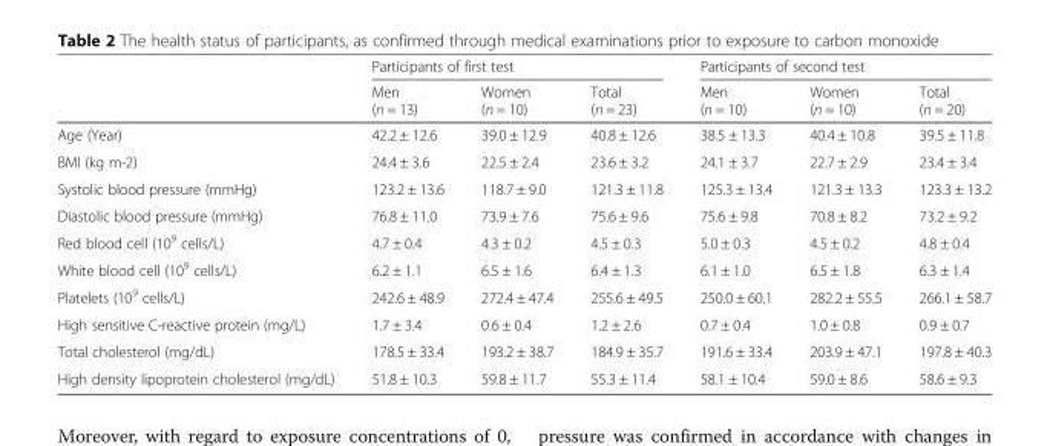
<table><thead><tr><td rowspan="2"></td><td colspan="3">Participants of first test</td><td colspan="3">Participants of second test</td></tr><tr><td>Men (n = 13)</td><td>Women (n = 10)</td><td>Total (n = 23)</td><td>Men (n = 10)</td><td>Women (n = 10)</td><td>Total (n = 20)</td></tr></thead><tbody><tr><td>Age (Year)</td><td>42.2 ± 12.6</td><td>39.0 ± 12.9</td><td>40.8 ± 12.6</td><td>38.5 ± 13.3</td><td>40.4 ± 10.8</td><td>39.5 ± 11.8</td></tr><tr><td>BMI (kg m-2)</td><td>24.4 ± 3.6</td><td>22.5 ± 2.4</td><td>23.6 ± 3.2</td><td>24.1 ± 3.7</td><td>22.7 ± 2.9</td><td>23.4 ± 3.4</td></tr><tr><td>Systolic blood pressure (mmHg)</td><td>123.2 ± 13.6</td><td>118.7 ± 9.0</td><td>121.3 ± 11.8</td><td>125.3 ± 13.4</td><td>121.3 ± 13.3</td><td>123.3 ± 13.2</td></tr><tr><td>Diastolic blood pressure (mmHg)</td><td>76.8 ± 11.0</td><td>73.9 ± 7.6</td><td>75.6 ± 9.6</td><td>75.6 ± 9.8</td><td>70.8 ± 8.2</td><td>73.2 ± 9.2</td></tr><tr><td>Red blood cell (10<sup>9</sup> cells/L)</td><td>4.7 ± 0.4</td><td>4.3 ± 0.2</td><td>4.5 ± 0.3</td><td>5.0 ± 0.3</td><td>4.5 ± 0.2</td><td>4.8 ± 0.4</td></tr><tr><td>White blood cell (10<sup>9</sup> cells/L)</td><td>6.2 ± 1.1</td><td>6.5 ± 1.6</td><td>6.4 ± 1.3</td><td>6.1 ± 1.0</td><td>6.5 ± 1.8</td><td>6.3 ± 1.4</td></tr><tr><td>Platelets (10<sup>9</sup> cells/L)</td><td>242.6 ± 48.9</td><td>272.4 ± 47.4</td><td>255.6 ± 49.5</td><td>250.0 ± 60.1</td><td>282.2 ± 55.5</td><td>266.1 ± 58.7</td></tr><tr><td>High sensitive C-reactive protein (mg/L)</td><td>1.7 ± 3.4</td><td>0.6 ± 0.4</td><td>1.2 ± 2.6</td><td>0.7 ± 0.4</td><td>1.0 ± 0.8</td><td>0.9 ± 0.7</td></tr><tr><td>Total cholesterol (mg/dL)</td><td>178.5 ± 33.4</td><td>193.2 ± 38.7</td><td>184.9 ± 35.7</td><td>191.6 ± 33.4</td><td>203.9 ± 47.1</td><td>197.8 ± 40.3</td></tr><tr><td>High density lipoprotein cholesterol (mg/dL)</td><td>51.8 ± 10.3</td><td>59.8 ± 11.7</td><td>55.3 ± 11.4</td><td>58.1 ± 10.4</td><td>59.0 ± 8.6</td><td>58.6 ± 9.3</td></tr></tbody></table>